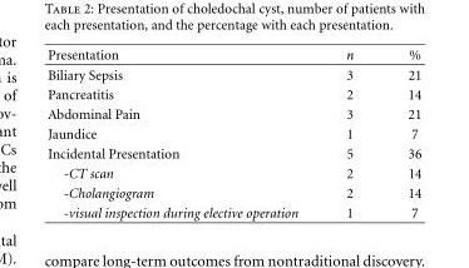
<table><thead><tr><td>Presentation</td><td>n</td><td>%</td></tr></thead><tbody><tr><td>Biliary Sepsis</td><td>3</td><td>21</td></tr><tr><td>Pancreatitis</td><td>2</td><td>14</td></tr><tr><td>Abdominal Pain</td><td>3</td><td>21</td></tr><tr><td>Jaundice</td><td>1</td><td>7</td></tr><tr><td>Incidental Presentation</td><td>5</td><td>36</td></tr><tr><td>-CT scan</td><td>2</td><td>14</td></tr><tr><td>-Cholangiogram</td><td>2</td><td>14</td></tr><tr><td>-visual inspection during elective operation</td><td>1</td><td>7</td></tr></tbody></table>